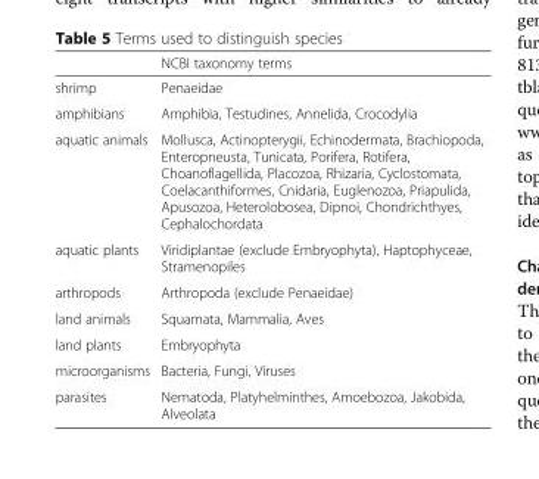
<table><thead><tr><td></td><td>NCBI taxonomy terms</td></tr></thead><tbody><tr><td>shrimp</td><td>Penaeidae</td></tr><tr><td>amphibians</td><td>Amphibia, Testudines, Annelida, Crocodylia</td></tr><tr><td>aquatic animals</td><td>Mollusca, Actinopterygii, Echinodermata, Brachiopoda, Enteropneusta, Tunicata, Porifera, Rotifera, Choanoflagellida, Placozoa, Rhizaria, Cyclostomata, Coelacanthiformes, Cnidaria, Euglenozoa, Priapulida, Apusozoa, Heterolobosea, Dipnoi, Chondrichthyes, Cephalochordata</td></tr><tr><td>aquatic plants</td><td>Viridiplantae (exclude Embryophyta), Haptophyceae, Stramenopiles</td></tr><tr><td>arthropods</td><td>Arthropoda (exclude Penaeidae)</td></tr><tr><td>land animals</td><td>Squamata, Mammalia, Aves</td></tr><tr><td>land plants</td><td>Embryophyta</td></tr><tr><td>microorganisms</td><td>Bacteria, Fungi, Viruses</td></tr><tr><td>parasites</td><td>Nematoda, Platyhelminthes, Amoebozoa, Jakobida, Alveolata</td></tr></tbody></table>